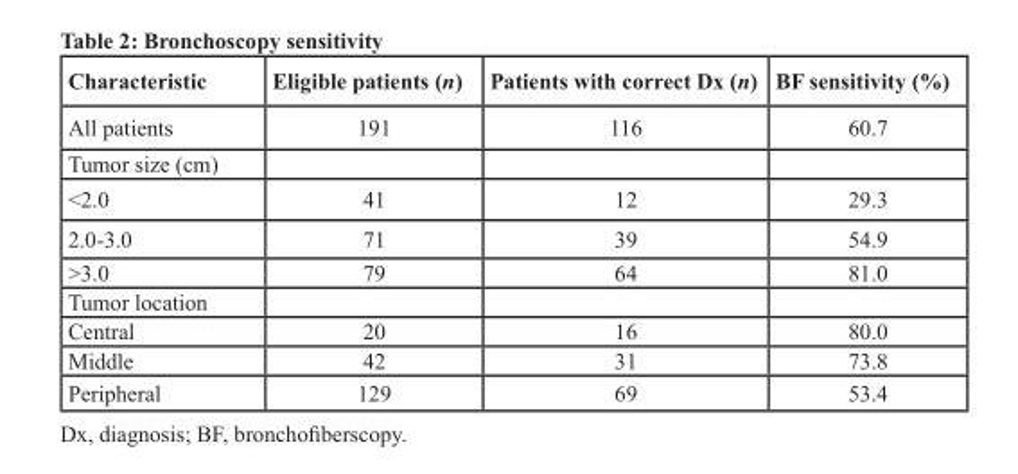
<table><thead><tr><td>Characteristic</td><td>Eligible patients (n)</td><td>Patients with correct Dx (n)</td><td>BF sensitivity (%)</td></tr></thead><tbody><tr><td>All patients</td><td>191</td><td>116</td><td>60.7</td></tr><tr><td colspan="4">Tumor size (cm)</td></tr><tr><td>&lt;2.0</td><td>41</td><td>12</td><td>29.3</td></tr><tr><td>2.0-3.0</td><td>71</td><td>39</td><td>54.9</td></tr><tr><td>&gt;3.0</td><td>79</td><td>64</td><td>81.0</td></tr><tr><td colspan="4">Tumor location</td></tr><tr><td>Central</td><td>20</td><td>16</td><td>80.0</td></tr><tr><td>Middle</td><td>42</td><td>31</td><td>73.8</td></tr><tr><td>Peripheral</td><td>129</td><td>69</td><td>53.4</td></tr></tbody></table>